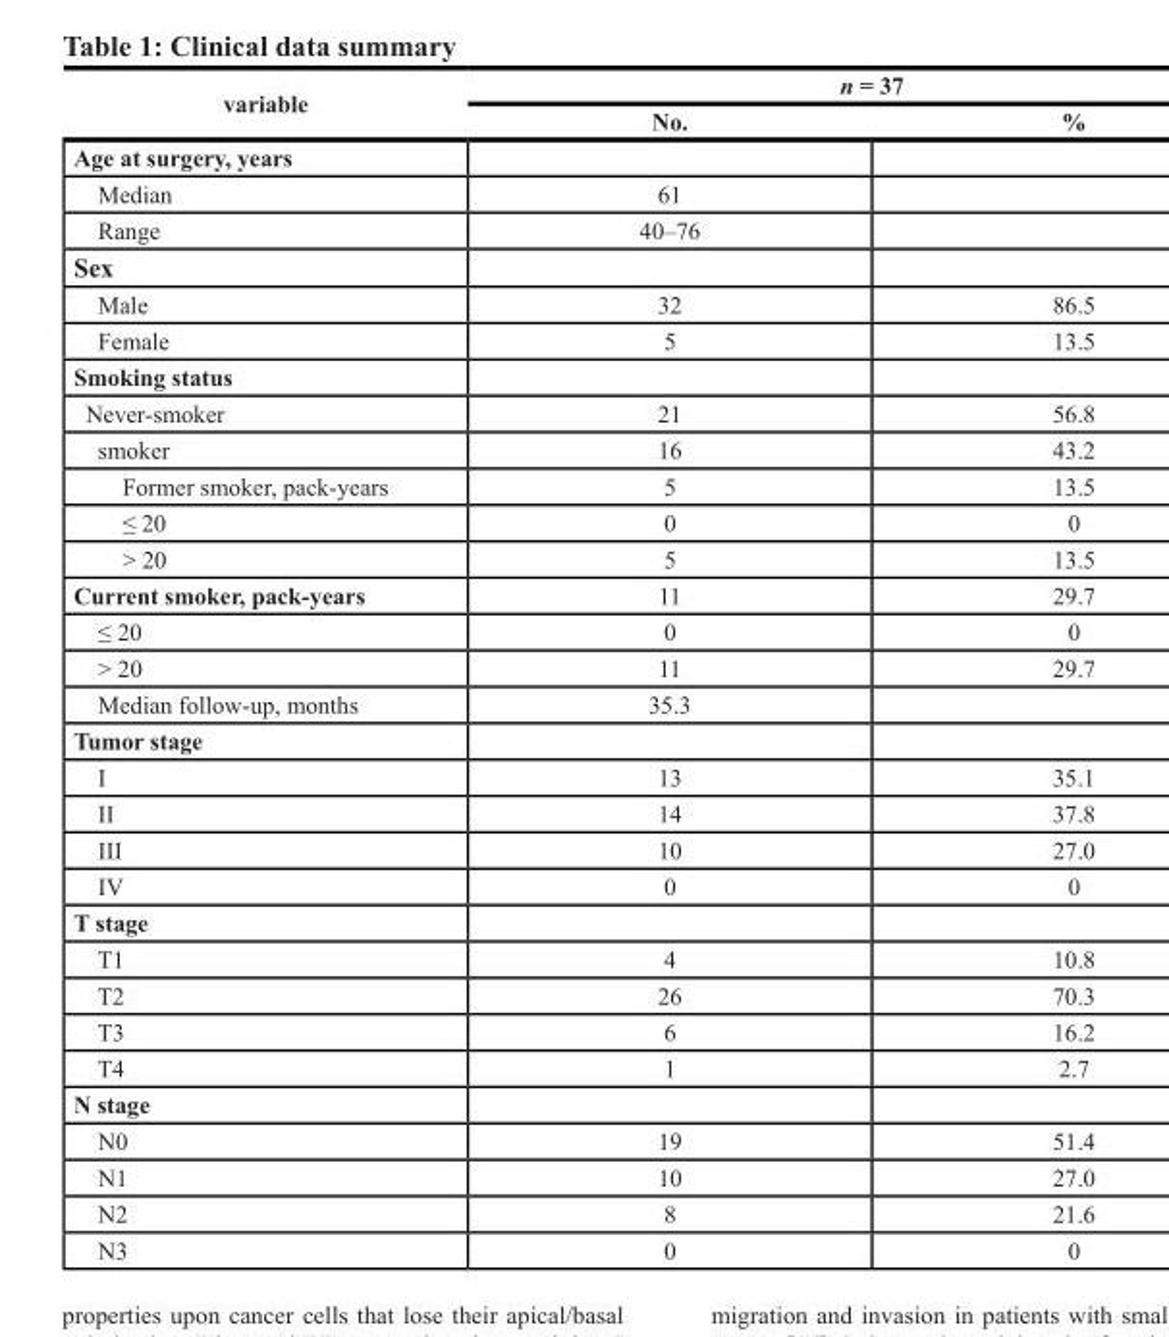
<table><thead><tr><td rowspan="2">variable</td><td colspan="2">n = 37</td></tr><tr><td>No.</td><td>%</td></tr></thead><tbody><tr><td colspan="3">Age at surgery, years</td></tr><tr><td>Median</td><td>61</td><td></td></tr><tr><td>Range</td><td>40–76</td><td></td></tr><tr><td colspan="3">Sex</td></tr><tr><td>Male</td><td>32</td><td>86.5</td></tr><tr><td>Female</td><td>5</td><td>13.5</td></tr><tr><td colspan="3">Smoking status</td></tr><tr><td>Never-smoker</td><td>21</td><td>56.8</td></tr><tr><td>smoker</td><td>16</td><td>43.2</td></tr><tr><td>Former smoker, pack-years</td><td>5</td><td>13.5</td></tr><tr><td>≤ 20</td><td>0</td><td>0</td></tr><tr><td>&gt; 20</td><td>5</td><td>13.5</td></tr><tr><td>Current smoker, pack-years</td><td>11</td><td>29.7</td></tr><tr><td>≤ 20</td><td>0</td><td>0</td></tr><tr><td>&gt; 20</td><td>11</td><td>29.7</td></tr><tr><td>Median follow-up, months</td><td>35.3</td><td></td></tr><tr><td colspan="3">Tumor stage</td></tr><tr><td>I</td><td>13</td><td>35.1</td></tr><tr><td>II</td><td>14</td><td>37.8</td></tr><tr><td>III</td><td>10</td><td>27.0</td></tr><tr><td>IV</td><td>0</td><td>0</td></tr><tr><td colspan="3">T stage</td></tr><tr><td>T1</td><td>4</td><td>10.8</td></tr><tr><td>T2</td><td>26</td><td>70.3</td></tr><tr><td>T3</td><td>6</td><td>16.2</td></tr><tr><td>T4</td><td>1</td><td>2.7</td></tr><tr><td colspan="3">N stage</td></tr><tr><td>N0</td><td>19</td><td>51.4</td></tr><tr><td>N1</td><td>10</td><td>27.0</td></tr><tr><td>N2</td><td>8</td><td>21.6</td></tr><tr><td>N3</td><td>0</td><td>0</td></tr></tbody></table>